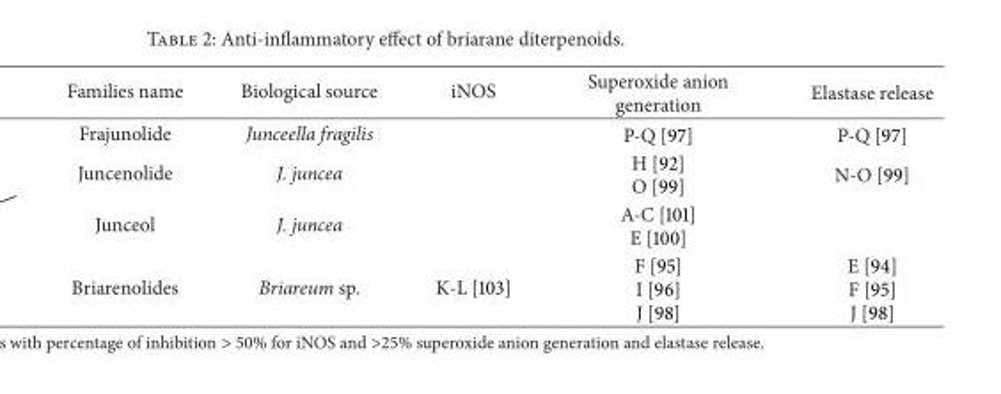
<table><thead><tr><td>Families name</td><td>Biological source</td><td>iNOS</td><td>Superoxide anion generation</td><td>Elastase release</td></tr></thead><tbody><tr><td>Frajunolide</td><td>Junceella fragilis</td><td></td><td>P-Q [97]</td><td>P-Q [97]</td></tr><tr><td>Juncenolide</td><td>J. juncea</td><td></td><td>H [92] O [99]</td><td>N-O [99]</td></tr><tr><td>Junceol</td><td>J. juncea</td><td></td><td>A-C [101] E [100]</td><td></td></tr><tr><td>Briarenolides</td><td>Briareum sp.</td><td>K-L [103]</td><td>F [95] I [96] J [98]</td><td>E [94] F [95] J [98]</td></tr></tbody></table>